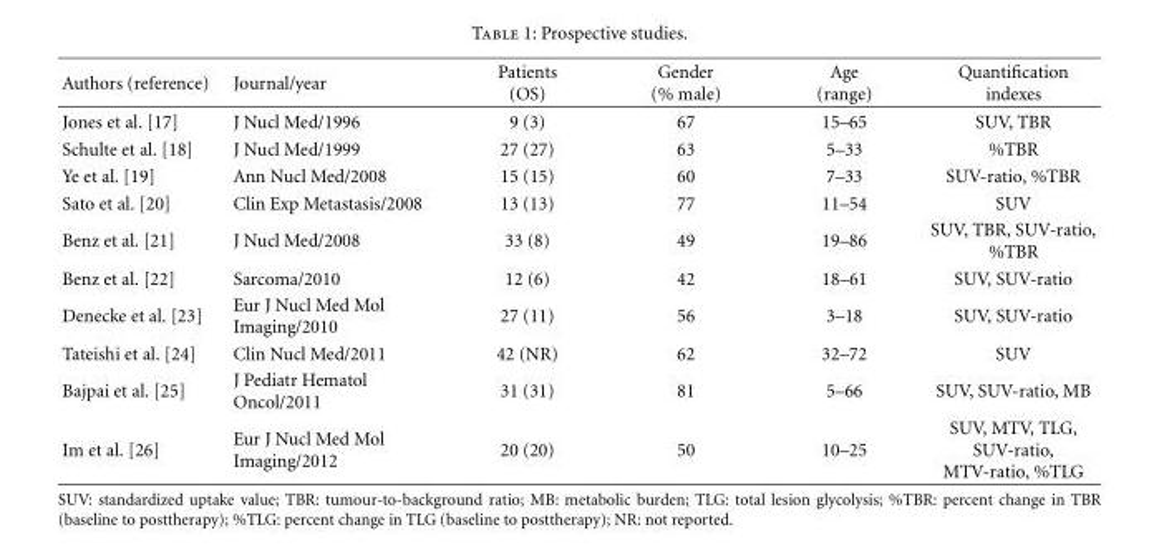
<table><thead><tr><td>Authors (reference)</td><td>Journal/year</td><td>Patients (OS)</td><td>Gender (% male)</td><td>Age (range)</td><td>Quantification indexes</td></tr></thead><tbody><tr><td>Jones et al. [17]</td><td>J Nucl Med/1996</td><td>9 (3)</td><td>67</td><td>15–65</td><td>SUV, TBR</td></tr><tr><td>Schulte et al. [18]</td><td>J Nucl Med/1999</td><td>27 (27)</td><td>63</td><td>5–33</td><td>%TBR</td></tr><tr><td>Ye et al. [19]</td><td>Ann Nucl Med/2008</td><td>15 (15)</td><td>60</td><td>7–33</td><td>SUV-ratio, %TBR</td></tr><tr><td>Sato et al. [20]</td><td>Clin Exp Metastasis/2008</td><td>13 (13)</td><td>77</td><td>11–54</td><td>SUV</td></tr><tr><td>Benz et al. [21]</td><td>J Nucl Med/2008</td><td>33 (8)</td><td>49</td><td>19–86</td><td>SUV, TBR, SUV-ratio, %TBR</td></tr><tr><td>Benz et al. [22]</td><td>Sarcoma/2010</td><td>12 (6)</td><td>42</td><td>18–61</td><td>SUV, SUV-ratio</td></tr><tr><td>Denecke et al. [23]</td><td>Eur J Nucl Med Mol Imaging/2010</td><td>27 (11)</td><td>56</td><td>3–18</td><td>SUV, SUV-ratio</td></tr><tr><td>Tateishi et al. [24]</td><td>Clin Nucl Med/2011</td><td>42 (NR)</td><td>62</td><td>32–72</td><td>SUV</td></tr><tr><td>Bajpai et al. [25]</td><td>J Pediatr Hematol Oncol/2011</td><td>31 (31)</td><td>81</td><td>5–66</td><td>SUV, SUV-ratio, MB</td></tr><tr><td>Im et al. [26]</td><td>Eur J Nucl Med Mol Imaging/2012</td><td>20 (20)</td><td>50</td><td>10–25</td><td>SUV, MTV, TLG, SUV-ratio, MTV-ratio, %TLG</td></tr></tbody></table>